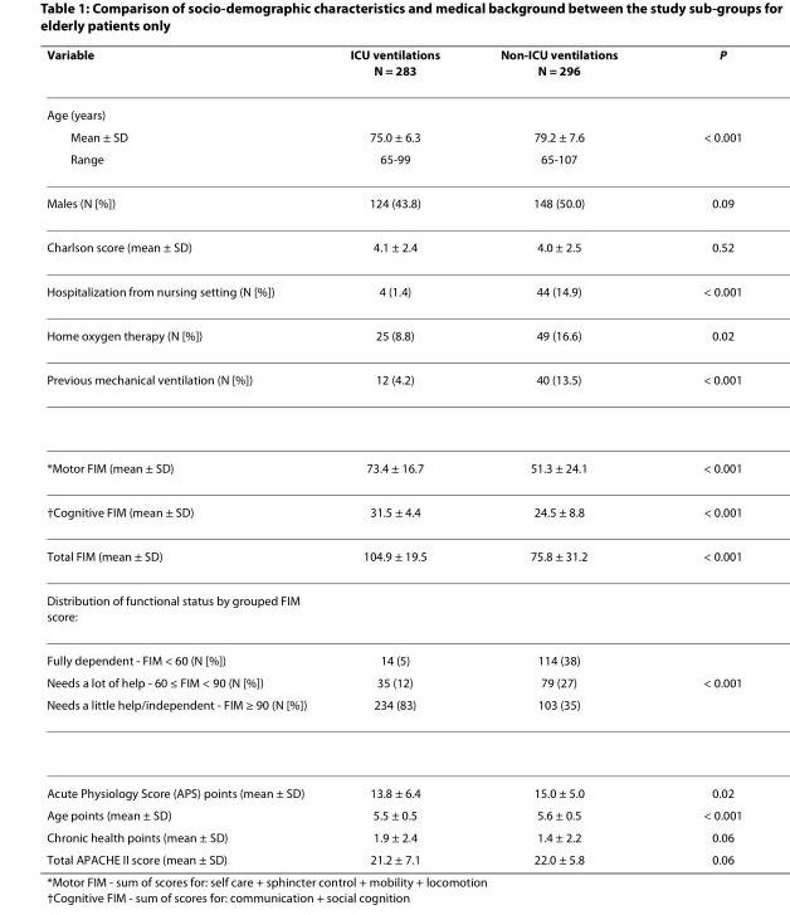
<table><thead><tr><td>Variable</td><td>ICU ventilations N = 283</td><td>Non-ICU ventilations N = 296</td><td>P</td></tr></thead><tbody><tr><td colspan="4">Age (years)</td></tr><tr><td>Mean ± SD</td><td>75.0 ± 6.3</td><td>79.2 ± 7.6</td><td>&lt; 0.001</td></tr><tr><td>Range</td><td>65-99</td><td>65-107</td><td></td></tr><tr><td>Males (N [%])</td><td>124 (43.8)</td><td>148 (50.0)</td><td>0.09</td></tr><tr><td>Charlson score (mean ± SD)</td><td>4.1 ± 2.4</td><td>4.0 ± 2.5</td><td>0.52</td></tr><tr><td>Hospitalization from nursing setting (N [%])</td><td>4 (1.4)</td><td>44 (14.9)</td><td>&lt; 0.001</td></tr><tr><td>Home oxygen therapy (N [%])</td><td>25 (8.8)</td><td>49 (16.6)</td><td>0.02</td></tr><tr><td>Previous mechanical ventilation (N [%])</td><td>12 (4.2)</td><td>40 (13.5)</td><td>&lt; 0.001</td></tr><tr><td>*Motor FIM (mean ± SD)</td><td>73.4 ± 16.7</td><td>51.3 ± 24.1</td><td>&lt; 0.001</td></tr><tr><td>†Cognitive FIM (mean ± SD)</td><td>31.5 ± 4.4</td><td>24.5 ± 8.8</td><td>&lt; 0.001</td></tr><tr><td>Total FIM (mean ± SD)</td><td>104.9 ± 19.5</td><td>75.8 ± 31.2</td><td>&lt; 0.001</td></tr><tr><td colspan="4">Distribution of functional status by grouped FIM score:</td></tr><tr><td>Fully dependent - FIM &lt; 60 (N [%])</td><td>14 (5)</td><td>114 (38)</td><td></td></tr><tr><td>Needs a lot of help - 60 ≤ FIM &lt; 90 (N [%])</td><td>35 (12)</td><td>79 (27)</td><td>&lt; 0.001</td></tr><tr><td>Needs a little help/independent - FIM ≥ 90 (N [%])</td><td>234 (83)</td><td>103 (35)</td><td></td></tr><tr><td>Acute Physiology Score (APS) points (mean ± SD)</td><td>13.8 ± 6.4</td><td>15.0 ± 5.0</td><td>0.02</td></tr><tr><td>Age points (mean ± SD)</td><td>5.5 ± 0.5</td><td>5.6 ± 0.5</td><td>&lt; 0.001</td></tr><tr><td>Chronic health points (mean ± SD)</td><td>1.9 ± 2.4</td><td>1.4 ± 2.2</td><td>0.06</td></tr><tr><td>Total APACHE II score (mean ± SD)</td><td>21.2 ± 7.1</td><td>22.0 ± 5.8</td><td>0.06</td></tr></tbody></table>